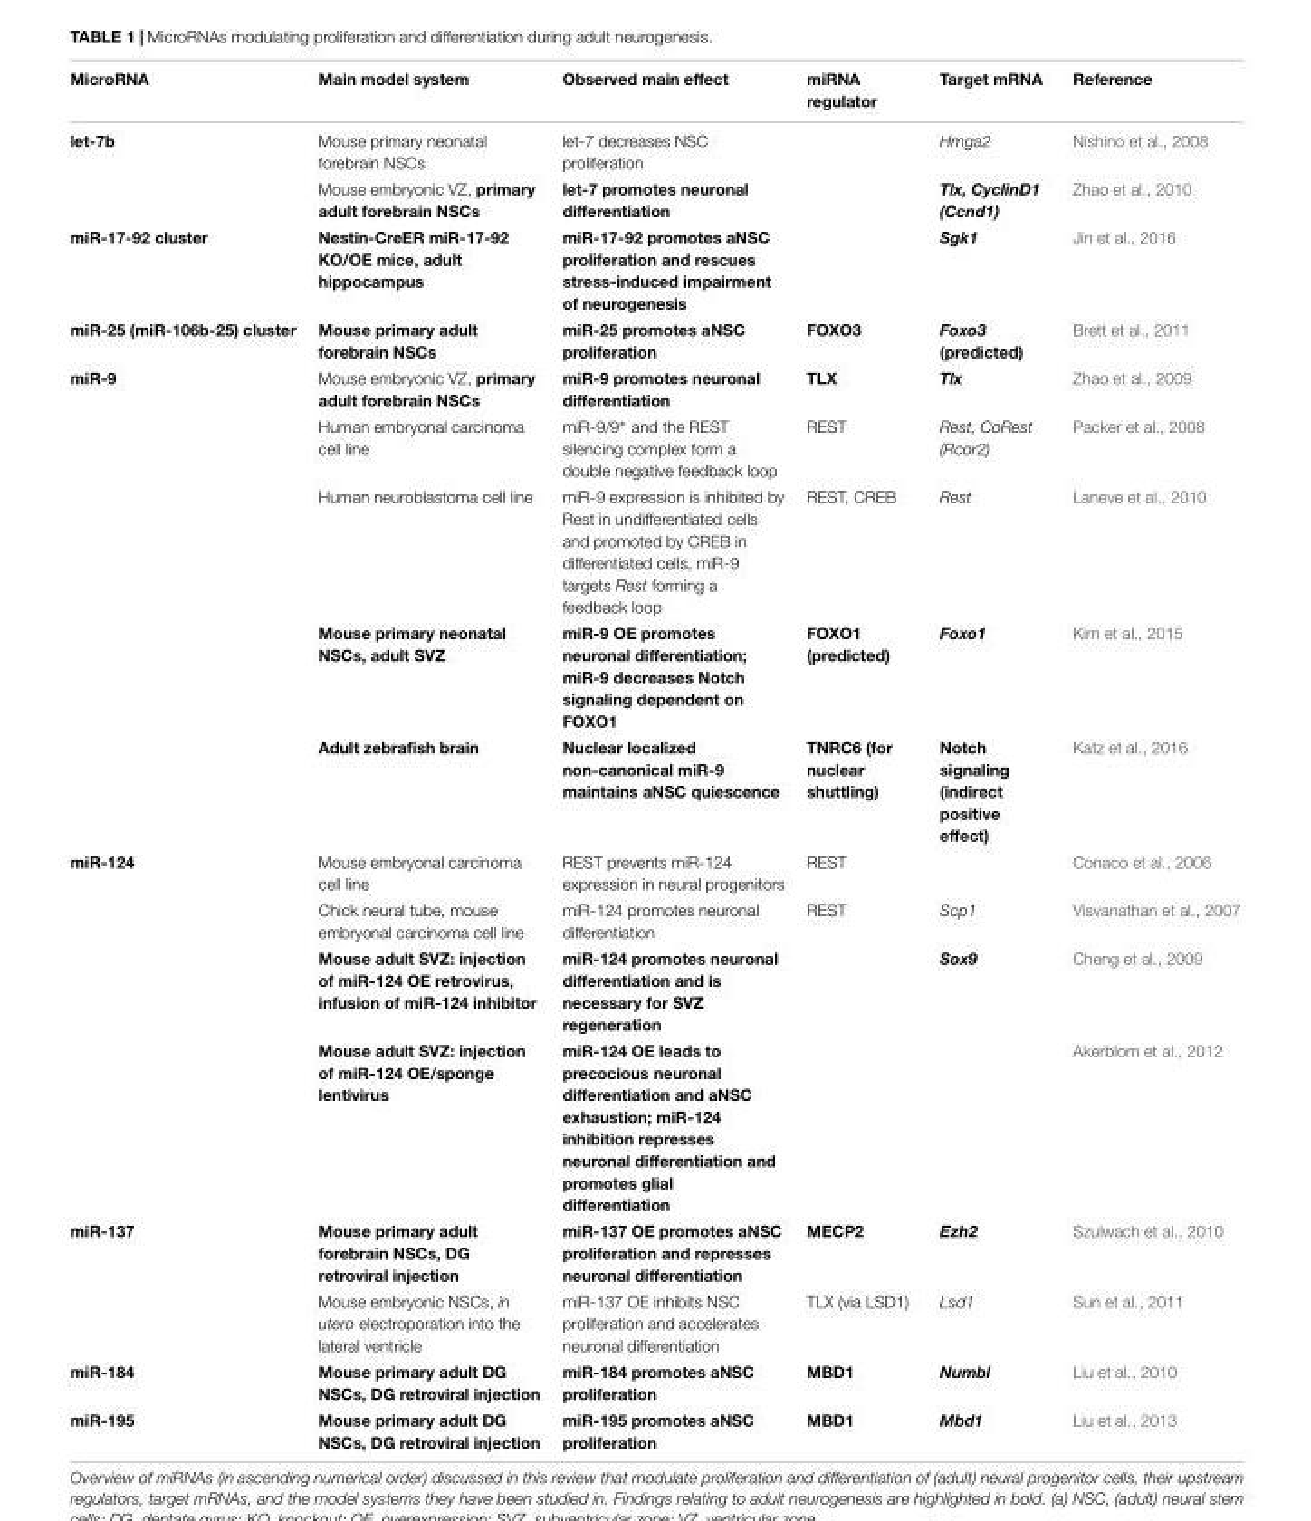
<table><thead><tr><td>MicroRNA</td><td>Main model system</td><td>Observed main effect</td><td>miRNA regulator</td><td>Target mRNA</td><td>Reference</td></tr></thead><tbody><tr><td rowspan="2">let-7b</td><td>Mouse primary neonatal forebrain NSCs</td><td>let-7 decreases NSC proliferation</td><td></td><td>Hmga2</td><td>Nishino et al., 2008</td></tr><tr><td>Mouse embryonic VZ, primary adult forebrain NSCs</td><td>let-7 promotes neuronal differentiation</td><td></td><td>Tlx, CyclinD1 (Ccnd1)</td><td>Zhao et al., 2010</td></tr><tr><td>miR-17-92 cluster</td><td>Nestin-CreER miR-17-92 KO/OE mice, adult hippocampus</td><td>miR-17-92 promotes aNSC proliferation and rescues stress-induced impairment of neurogenesis</td><td></td><td>Sgk1</td><td>Jin et al., 2016</td></tr><tr><td>miR-25 (miR-106b-25) cluster</td><td>Mouse primary adult forebrain NSCs</td><td>miR-25 promotes aNSC proliferation</td><td>FOXO3</td><td>Foxo3 (predicted)</td><td>Brett et al., 2011</td></tr><tr><td rowspan="5">miR-9</td><td>Mouse embryonic VZ, primary adult forebrain NSCs</td><td>miR-9 promotes neuronal differentiation</td><td>TLX</td><td>Tlx</td><td>Zhao et al., 2009</td></tr><tr><td>Human embryonal carcinoma cell line</td><td>miR-9/9∗ and the REST silencing complex form a double negative feedback loop</td><td>REST</td><td>Rest, CoRest (Rcor2)</td><td>Packer et al., 2008</td></tr><tr><td>Human neuroblastoma cell line</td><td>miR-9 expression is inhibited by Rest in undifferentiated cells and promoted by CREB in differentiated cells, miR-9 targets Rest forming a feedback loop</td><td>REST, CREB</td><td>Rest</td><td>Laneve et al., 2010</td></tr><tr><td>Mouse primary neonatal NSCs, adult SVZ</td><td>miR-9 OE promotes neuronal differentiation; miR-9 decreases Notch signaling dependent on FOXO1</td><td>FOXO1 (predicted)</td><td>Foxo1</td><td>Kim et al., 2015</td></tr><tr><td>Adult zebrafish brain</td><td>Nuclear localized non-canonical miR-9 maintains aNSC quiescence</td><td>TNRC6 (for nuclear shuttling)</td><td>Notch signaling (indirect positive effect)</td><td>Katz et al., 2016</td></tr><tr><td rowspan="4">miR-124</td><td>Mouse embryonal carcinoma cell line</td><td>REST prevents miR-124 expression in neural progenitors</td><td>REST</td><td></td><td>Conaco et al., 2006</td></tr><tr><td>Chick neural tube, mouse embryonal carcinoma cell line</td><td>miR-124 promotes neuronal differentiation</td><td>REST</td><td>Scp1</td><td>Visvanathan et al., 2007</td></tr><tr><td>Mouse adult SVZ: injection of miR-124 OE retrovirus, infusion of miR-124 inhibitor</td><td>miR-124 promotes neuronal differentiation and is necessary for SVZ regeneration</td><td></td><td>Sox9</td><td>Cheng et al., 2009</td></tr><tr><td>Mouse adult SVZ: injection of miR-124 OE/sponge lentivirus</td><td>miR-124 OE leads to precocious neuronal differentiation and aNSC exhaustion; miR-124 inhibition represses neuronal differentiation and promotes glial differentiation</td><td></td><td></td><td>Akerblom et al., 2012</td></tr><tr><td rowspan="2">miR-137</td><td>Mouse primary adult forebrain NSCs, DG retroviral injection</td><td>miR-137 OE promotes aNSC proliferation and represses neuronal differentiation</td><td>MECP2</td><td>Ezh2</td><td>Szulwach et al., 2010</td></tr><tr><td>Mouse embryonic NSCs, in utero electroporation into the lateral ventricle</td><td>miR-137 OE inhibits NSC proliferation and accelerates neuronal differentiation</td><td>TLX (via LSD1)</td><td>Lsd1</td><td>Sun et al., 2011</td></tr><tr><td>miR-184</td><td>Mouse primary adult DG NSCs, DG retroviral injection</td><td>miR-184 promotes aNSC proliferation</td><td>MBD1</td><td>Numbl</td><td>Liu et al., 2010</td></tr><tr><td>miR-195</td><td>Mouse primary adult DG NSCs, DG retroviral injection</td><td>miR-195 promotes aNSC proliferation</td><td>MBD1</td><td>Mbd1</td><td>Liu et al., 2013</td></tr></tbody></table>